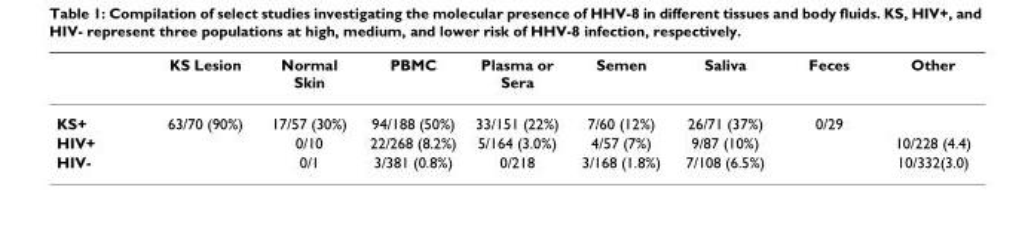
<table><thead><tr><td></td><td>KS Lesion</td><td>Normal Skin</td><td>PBMC</td><td>Plasma or Sera</td><td>Semen</td><td>Saliva</td><td>Feces</td><td>Other</td></tr></thead><tbody><tr><td>KS+</td><td>63/70 (90%)</td><td>17/57 (30%)</td><td>94/188 (50%)</td><td>33/151 (22%)</td><td>7/60 (12%)</td><td>26/71 (37%)</td><td>0/29</td><td></td></tr><tr><td>HIV+</td><td></td><td>0/10</td><td>22/268 (8.2%)</td><td>5/164 (3.0%)</td><td>4/57 (7%)</td><td>9/87 (10%)</td><td></td><td>10/228 (4.4)</td></tr><tr><td>HIV-</td><td></td><td>0/1</td><td>3/381 (0.8%)</td><td>0/218</td><td>3/168 (1.8%)</td><td>7/108 (6.5%)</td><td></td><td>10/332(3.0)</td></tr></tbody></table>